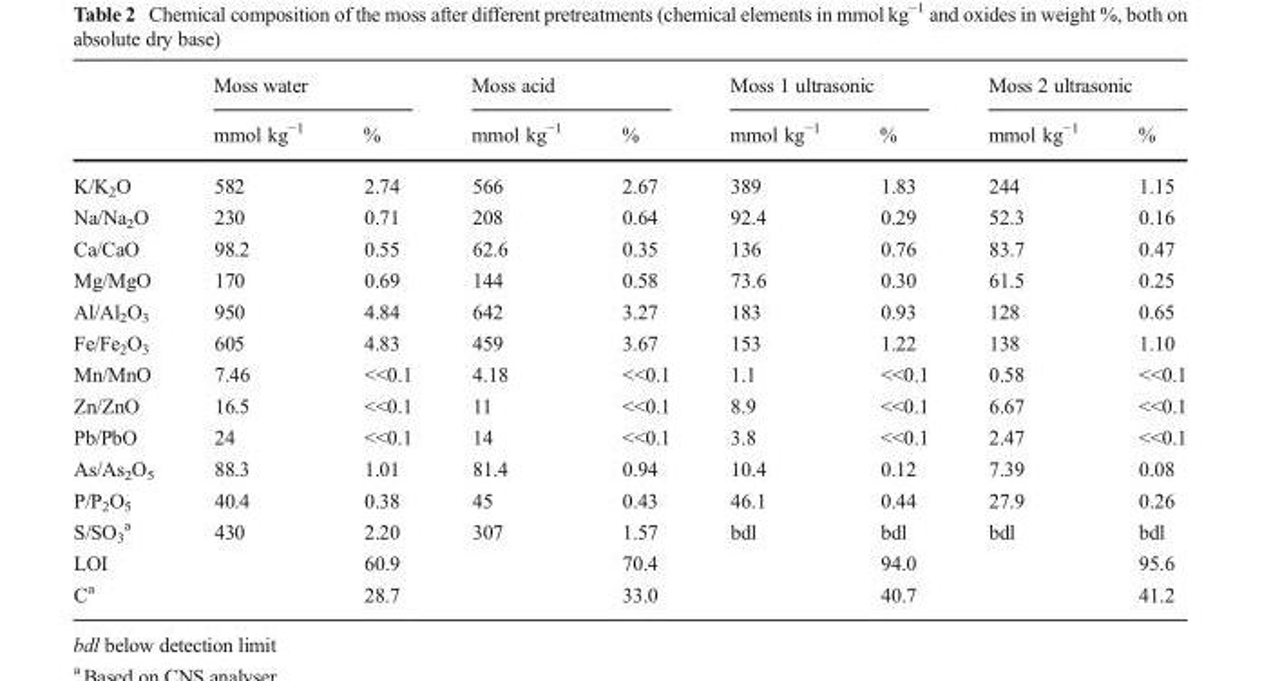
<table><thead><tr><td rowspan="2"></td><td colspan="2">Moss water</td><td colspan="2">Moss acid</td><td colspan="2">Moss 1 ultrasonic</td><td colspan="2">Moss 2 ultrasonic</td></tr><tr><td>mmol kg<sup>−1</sup></td><td>%</td><td>mmol kg<sup>−1</sup></td><td>%</td><td>mmol kg<sup>−1</sup></td><td>%</td><td>mmol kg<sup>−1</sup></td><td>%</td></tr></thead><tbody><tr><td>K/K<sub>2</sub>O</td><td>582</td><td>2.74</td><td>566</td><td>2.67</td><td>389</td><td>1.83</td><td>244</td><td>1.15</td></tr><tr><td>Na/Na<sub>2</sub>O</td><td>230</td><td>0.71</td><td>208</td><td>0.64</td><td>92.4</td><td>0.29</td><td>52.3</td><td>0.16</td></tr><tr><td>Ca/CaO</td><td>98.2</td><td>0.55</td><td>62.6</td><td>0.35</td><td>136</td><td>0.76</td><td>83.7</td><td>0.47</td></tr><tr><td>Mg/MgO</td><td>170</td><td>0.69</td><td>144</td><td>0.58</td><td>73.6</td><td>0.30</td><td>61.5</td><td>0.25</td></tr><tr><td>Al/Al<sub>2</sub>O<sub>3</sub></td><td>950</td><td>4.84</td><td>642</td><td>3.27</td><td>183</td><td>0.93</td><td>128</td><td>0.65</td></tr><tr><td>Fe/Fe<sub>2</sub>O<sub>3</sub></td><td>605</td><td>4.83</td><td>459</td><td>3.67</td><td>153</td><td>1.22</td><td>138</td><td>1.10</td></tr><tr><td>Mn/MnO</td><td>7.46</td><td>&lt;&lt;0.1</td><td>4.18</td><td>&lt;&lt;0.1</td><td>1.1</td><td>&lt;&lt;0.1</td><td>0.58</td><td>&lt;&lt;0.1</td></tr><tr><td>Zn/ZnO</td><td>16.5</td><td>&lt;&lt;0.1</td><td>11</td><td>&lt;&lt;0.1</td><td>8.9</td><td>&lt;&lt;0.1</td><td>6.67</td><td>&lt;&lt;0.1</td></tr><tr><td>Pb/PbO</td><td>24</td><td>&lt;&lt;0.1</td><td>14</td><td>&lt;&lt;0.1</td><td>3.8</td><td>&lt;&lt;0.1</td><td>2.47</td><td>&lt;&lt;0.1</td></tr><tr><td>As/As<sub>2</sub>O<sub>5</sub></td><td>88.3</td><td>1.01</td><td>81.4</td><td>0.94</td><td>10.4</td><td>0.12</td><td>7.39</td><td>0.08</td></tr><tr><td>P/P<sub>2</sub>O<sub>5</sub></td><td>40.4</td><td>0.38</td><td>45</td><td>0.43</td><td>46.1</td><td>0.44</td><td>27.9</td><td>0.26</td></tr><tr><td>S/SO<sub>3</sub> <sup>a</sup></td><td>430</td><td>2.20</td><td>307</td><td>1.57</td><td>bdl</td><td>bdl</td><td>bdl</td><td>bdl</td></tr><tr><td>LOI</td><td></td><td>60.9</td><td></td><td>70.4</td><td></td><td>94.0</td><td></td><td>95.6</td></tr><tr><td>C<sup>a</sup></td><td></td><td>28.7</td><td></td><td>33.0</td><td></td><td>40.7</td><td></td><td>41.2</td></tr></tbody></table>